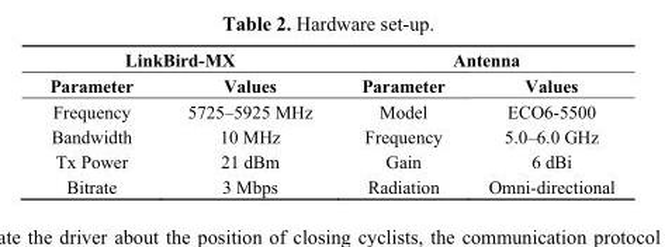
<table><thead><tr><td colspan="2">LinkBird-MX</td><td colspan="2">Antenna</td></tr><tr><td>Parameter</td><td>Values</td><td>Parameter</td><td>Values</td></tr></thead><tbody><tr><td>Frequency</td><td>5725–5925 MHz</td><td>Model</td><td>ECO6-5500</td></tr><tr><td>Bandwidth</td><td>10 MHz</td><td>Frequency</td><td>5.0–6.0 GHz</td></tr><tr><td>Tx Power</td><td>21 dBm</td><td>Gain</td><td>6 dBi</td></tr><tr><td>Bitrate</td><td>3 Mbps</td><td>Radiation</td><td>Omni-directional</td></tr></tbody></table>